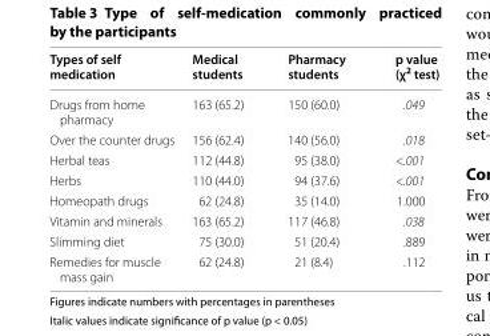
<table><thead><tr><td>Types of self medication</td><td>Medical students</td><td>Pharmacy students</td><td>p value (χ<sup>2</sup> test)</td></tr></thead><tbody><tr><td>Drugs from home pharmacy</td><td>163 (65.2)</td><td>150 (60.0)</td><td>.049</td></tr><tr><td>Over the counter drugs</td><td>156 (62.4)</td><td>140 (56.0)</td><td>.018</td></tr><tr><td>Herbal teas</td><td>112 (44.8)</td><td>95 (38.0)</td><td>&lt;.001</td></tr><tr><td>Herbs</td><td>110 (44.0)</td><td>94 (37.6)</td><td>&lt;.001</td></tr><tr><td>Homeopath drugs</td><td>62 (24.8)</td><td>35 (14.0)</td><td>1.000</td></tr><tr><td>Vitamin and minerals</td><td>163 (65.2)</td><td>117 (46.8)</td><td>.038</td></tr><tr><td>Slimming diet</td><td>75 (30.0)</td><td>51 (20.4)</td><td>.889</td></tr><tr><td>Remedies for muscle mass gain</td><td>62 (24.8)</td><td>21 (8.4)</td><td>.112</td></tr></tbody></table>